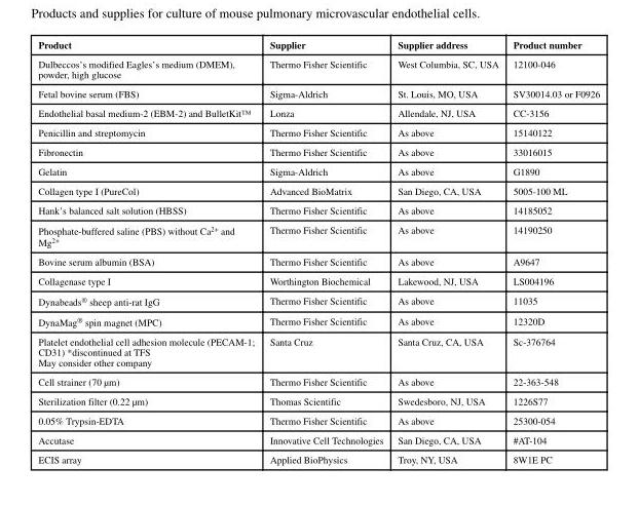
<table><thead><tr><td>Product</td><td>Supplier</td><td>Supplier address</td><td>Product number</td></tr></thead><tbody><tr><td>Dulbeccos’s modified Eagles’s medium (DMEM), powder, high glucose</td><td>Thermo Fisher Scientific</td><td>West Columbia, SC, USA</td><td>12100-046</td></tr><tr><td>Fetal bovine serum (FBS)</td><td>Sigma-Aldrich</td><td>St. Louis, MO, USA</td><td>SV30014.03 or F0926</td></tr><tr><td>Endothelial basal medium-2 (EBM-2) and BulletKit™</td><td>Lonza</td><td>Allendale, NJ, USA</td><td>CC-3156</td></tr><tr><td>Penicillin and streptomycin</td><td>Thermo Fisher Scientific</td><td>As above</td><td>15140122</td></tr><tr><td>Fibronectin</td><td>Thermo Fisher Scientific</td><td>As above</td><td>33016015</td></tr><tr><td>Gelatin</td><td>Sigma-Aldrich</td><td>As above</td><td>G1890</td></tr><tr><td>Collagen type I (PureCol)</td><td>Advanced BioMatrix</td><td>San Diego, CA, USA</td><td>5005-100 ML</td></tr><tr><td>Hank’s balanced salt solution (HBSS)</td><td>Thermo Fisher Scientific</td><td>As above</td><td>14185052</td></tr><tr><td>Phosphate-buffered saline (PBS) without Ca<sup>2+</sup> and Mg<sup>2+</sup></td><td>Thermo Fisher Scientific</td><td>As above</td><td>14190250</td></tr><tr><td>Bovine serum albumin (BSA)</td><td>Thermo Fisher Scientific</td><td>As above</td><td>A9647</td></tr><tr><td>Collagenase type I</td><td>Worthington Biochemical</td><td>Lakewood, NJ, USA</td><td>LS004196</td></tr><tr><td>Dynabeads<sup>®</sup> sheep anti-rat IgG</td><td>Thermo Fisher Scientific</td><td>As above</td><td>11035</td></tr><tr><td>DynaMag<sup>®</sup> spin magnet (MPC)</td><td>Thermo Fisher Scientific</td><td>As above</td><td>12320D</td></tr><tr><td>Platelet endothelial cell adhesion molecule (PECAM-1; CD31) *discontinued at TFS May consider other company</td><td>Santa Cruz</td><td>Santa Cruz, CA, USA</td><td>Sc-376764</td></tr><tr><td>Cell strainer (70 μm)</td><td>Thermo Fisher Scientific</td><td>As above</td><td>22-363-548</td></tr><tr><td>Sterilization filter (0.22 μm)</td><td>Thomas Scientific</td><td>Swedesboro, NJ, USA</td><td>1226S77</td></tr><tr><td>0.05% Trypsin-EDTA</td><td>Thermo Fisher Scientific</td><td>As above</td><td>25300-054</td></tr><tr><td>Accutase</td><td>Innovative Cell Technologies</td><td>San Diego, CA, USA</td><td>#AT-104</td></tr><tr><td>ECIS array</td><td>Applied BioPhysics</td><td>Troy, NY, USA</td><td>8W1E PC</td></tr></tbody></table>